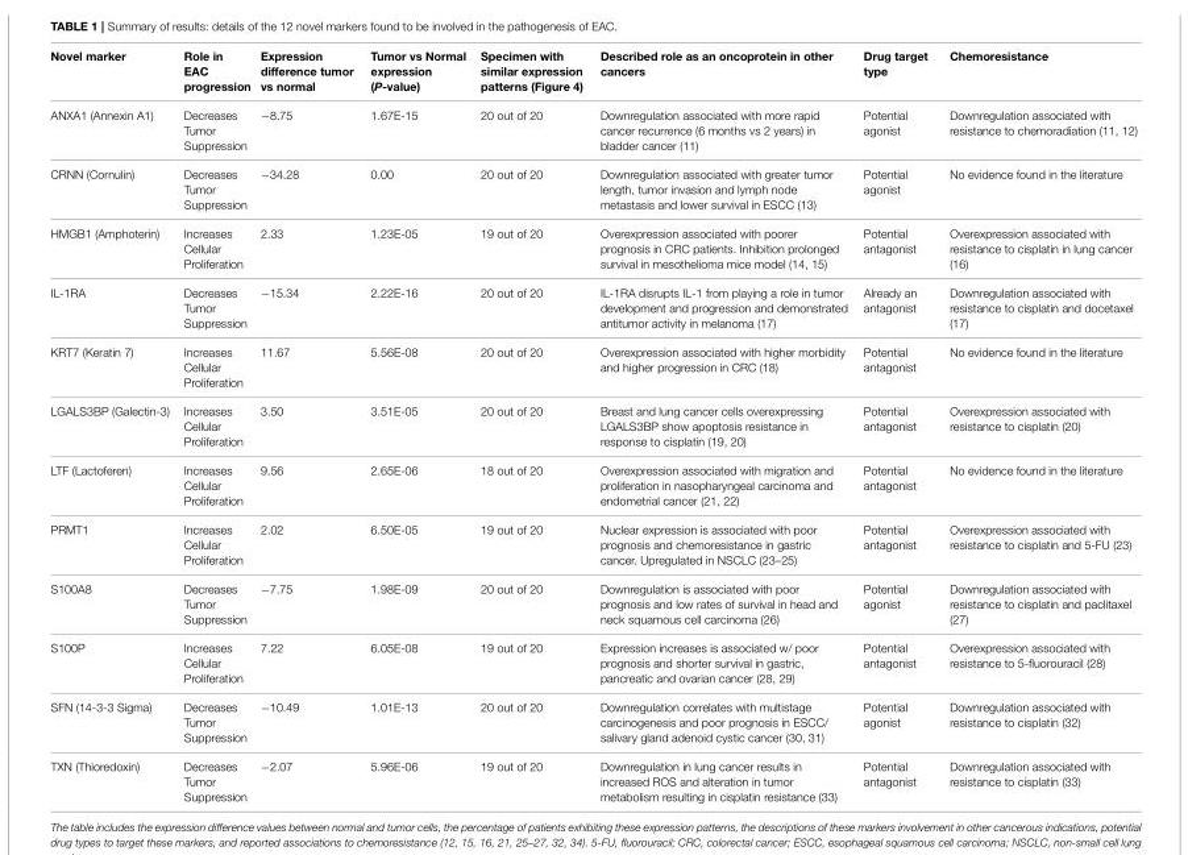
<table><thead><tr><td>Novel marker</td><td>Role in EAC progression</td><td>Expression difference tumor vs normal</td><td>Tumor vs Normal expression (P-value)</td><td>Specimen with similar expression patterns (Figure 4)</td><td>Described role as an oncoprotein in other cancers</td><td>Drug target type</td><td>Chemoresistance</td></tr></thead><tbody><tr><td>ANXA1 (Annexin A1)</td><td>Decreases Tumor Suppression</td><td>−8.75</td><td>1.67E-15</td><td>20 out of 20</td><td>Downregulation associated with more rapid cancer recurrence (6 months vs 2 years) in bladder cancer (11)</td><td>Potential agonist</td><td>Downregulation associated with resistance to chemoradiation (11, 12)</td></tr><tr><td>CRNN (Cornulin)</td><td>Decreases Tumor Suppression</td><td>−34.28</td><td>0.00</td><td>20 out of 20</td><td>Downregulation associated with greater tumor length, tumor invasion and lymph node metastasis and lower survival in ESCC (13)</td><td>Potential agonist</td><td>No evidence found in the literature</td></tr><tr><td>HMGB1 (Amphoterin)</td><td>Increases Cellular Proliferation</td><td>2.33</td><td>1.23E-05</td><td>19 out of 20</td><td>Overexpression associated with poorer prognosis in CRC patients. Inhibition prolonged survival in mesothelioma mice model (14, 15)</td><td>Potential antagonist</td><td>Overexpression associated with resistance to cisplatin in lung cancer (16)</td></tr><tr><td>IL-1RA</td><td>Decreases Tumor Suppression</td><td>−15.34</td><td>2.22E-16</td><td>20 out of 20</td><td>IL-1RA disrupts IL-1 from playing a role in tumor development and progression and demonstrated antitumor activity in melanoma (17)</td><td>Already an antagonist</td><td>Downregulation associated with resistance to cisplatin and docetaxel (17)</td></tr><tr><td>KRT7 (Keratin 7)</td><td>Increases Cellular Proliferation</td><td>11.67</td><td>5.56E-08</td><td>20 out of 20</td><td>Overexpression associated with higher morbidity and higher progression in CRC (18)</td><td>Potential antagonist</td><td>No evidence found in the literature</td></tr><tr><td>LGALS3BP (Galectin-3)</td><td>Increases Cellular Proliferation</td><td>3.50</td><td>3.51E-05</td><td>20 out of 20</td><td>Breast and lung cancer cells overexpressing LGALS3BP show apoptosis resistance in response to cisplatin (19, 20)</td><td>Potential antagonist</td><td>Overexpression associated with resistance to cisplatin (20)</td></tr><tr><td>LTF (Lactoferen)</td><td>Increases Cellular Proliferation</td><td>9.56</td><td>2.65E-06</td><td>18 out of 20</td><td>Overexpression associated with migration and proliferation in nasopharyngeal carcinoma and endometrial cancer (21, 22)</td><td>Potential antagonist</td><td>No evidence found in the literature</td></tr><tr><td>PRMT1</td><td>Increases Cellular Proliferation</td><td>2.02</td><td>6.50E-05</td><td>19 out of 20</td><td>Nuclear expression is associated with poor prognosis and chemoresistance in gastric cancer. Upregulated in NSCLC (23–25)</td><td>Potential antagonist</td><td>Overexpression associated with resistance to cisplatin and 5-FU (23)</td></tr><tr><td>S100A8</td><td>Decreases Tumor Suppression</td><td>−7.75</td><td>1.98E-09</td><td>20 out of 20</td><td>Downregulation is associated with poor prognosis and low rates of survival in head and neck squamous cell carcinoma (26)</td><td>Potential agonist</td><td>Downregulation associated with resistance to cisplatin and paclitaxel (27)</td></tr><tr><td>S100P</td><td>Increases Cellular Proliferation</td><td>7.22</td><td>6.05E-08</td><td>19 out of 20</td><td>Expression increases is associated w/ poor prognosis and shorter survival in gastric, pancreatic and ovarian cancer (28, 29)</td><td>Potential antagonist</td><td>Overexpression associated with resistance to 5-fluorouracil (28)</td></tr><tr><td>SFN (14-3-3 Sigma)</td><td>Decreases Tumor Suppression</td><td>−10.49</td><td>1.01E-13</td><td>20 out of 20</td><td>Downregulation correlates with multistage carcinogenesis and poor prognosis in ESCC/ salivary gland adenoid cystic cancer (30, 31)</td><td>Potential agonist</td><td>Downregulation associated with resistance to cisplatin (32)</td></tr><tr><td>TXN (Thioredoxin)</td><td>Decreases Tumor Suppression</td><td>−2.07</td><td>5.96E-06</td><td>19 out of 20</td><td>Downregulation in lung cancer results in increased ROS and alteration in tumor metabolism resulting in cisplatin resistance (33)</td><td>Potential antagonist</td><td>Downregulation associated with resistance to cisplatin (33)</td></tr></tbody></table>